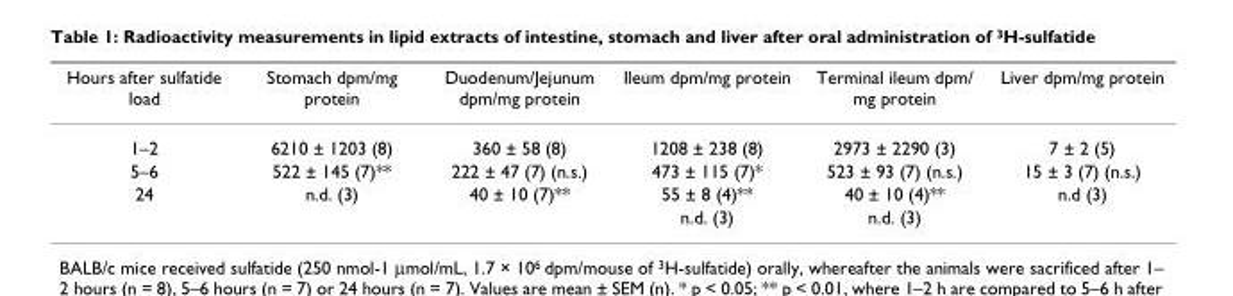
<table><thead><tr><td>Hours after sulfatide load</td><td>Stomach dpm/mg protein</td><td>Duodenum/Jejunum dpm/mg protein</td><td>Ileum dpm/mg protein</td><td>Terminal ileum dpm/ mg protein</td><td>Liver dpm/mg protein</td></tr></thead><tbody><tr><td>1–2</td><td>6210 ± 1203 (8)</td><td>360 ± 58 (8)</td><td>1208 ± 238 (8)</td><td>2973 ± 2290 (3)</td><td>7 ± 2 (5)</td></tr><tr><td>5–6</td><td>522 ± 145 (7)**</td><td>222 ± 47 (7) (n.s.)</td><td>473 ± 115 (7)*</td><td>523 ± 93 (7) (n.s.)</td><td>15 ± 3 (7) (n.s.)</td></tr><tr><td rowspan="2">24</td><td>n.d. (3)</td><td>40 ± 10 (7)**</td><td>55 ± 8 (4)**</td><td>40 ± 10 (4)**</td><td>n.d (3)</td></tr><tr><td></td><td></td><td>n.d. (3)</td><td>n.d. (3)</td><td></td></tr></tbody></table>